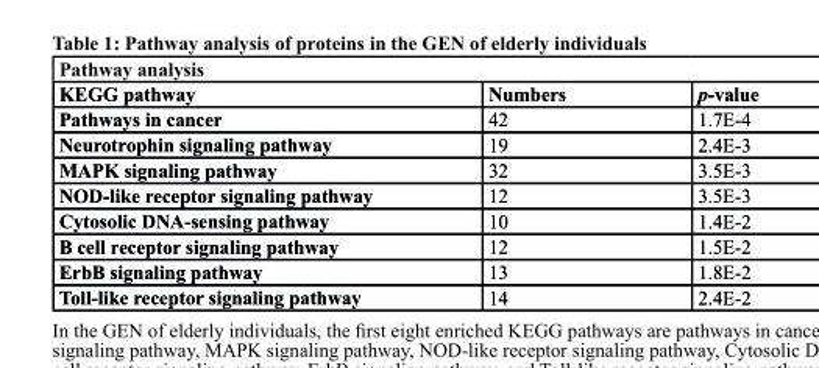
<table><thead><tr><td colspan="3">Pathway analysis</td></tr><tr><td>KEGG pathway</td><td>numbers</td><td>p-value</td></tr></thead><tbody><tr><td>Pathways in cancer</td><td>42</td><td>1.7E-4</td></tr><tr><td>Neurotrophin signaling pathway</td><td>19</td><td>2.4E-3</td></tr><tr><td>MAPK signaling pathway</td><td>32</td><td>3.5E-3</td></tr><tr><td>NOD-like receptor signaling pathway</td><td>12</td><td>3.5E-3</td></tr><tr><td>Cytosolic DNA-sensing pathway</td><td>10</td><td>1.4E-2</td></tr><tr><td>B cell receptor signaling pathway</td><td>12</td><td>1.5E-2</td></tr><tr><td>ErbB signaling pathway</td><td>13</td><td>1.8E-2</td></tr><tr><td>Toll-like receptor signaling pathway</td><td>14</td><td>2.4E-2</td></tr></tbody></table>